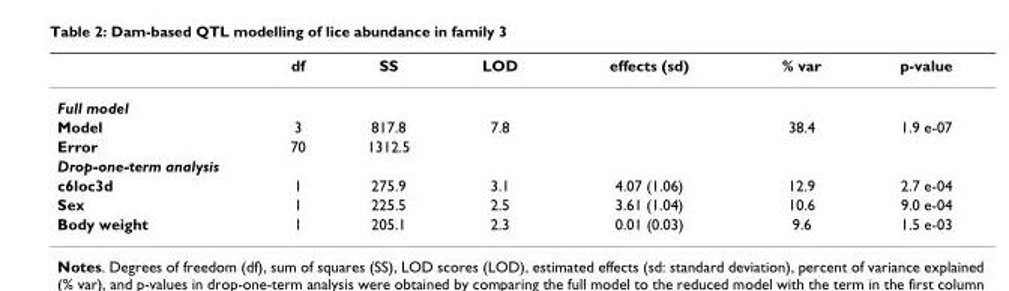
<table><thead><tr><td></td><td>df</td><td>SS</td><td>LOD</td><td>effects (sd)</td><td>% var</td><td>p-value</td></tr></thead><tbody><tr><td colspan="7">Full model</td></tr><tr><td>Model</td><td>3</td><td>817.8</td><td>7.8</td><td></td><td>38.4</td><td>1.9 e-07</td></tr><tr><td>Error</td><td>70</td><td>1312.5</td><td></td><td></td><td></td><td></td></tr><tr><td colspan="7">Drop-one-term analysis</td></tr><tr><td>c6loc3d</td><td>1</td><td>275.9</td><td>3.1</td><td>4.07 (1.06)</td><td>12.9</td><td>2.7 e-04</td></tr><tr><td>Sex</td><td>1</td><td>225.5</td><td>2.5</td><td>3.61 (1.04)</td><td>10.6</td><td>9.0 e-04</td></tr><tr><td>Body weight</td><td>1</td><td>205.1</td><td>2.3</td><td>0.01 (0.03)</td><td>9.6</td><td>1.5 e-03</td></tr></tbody></table>